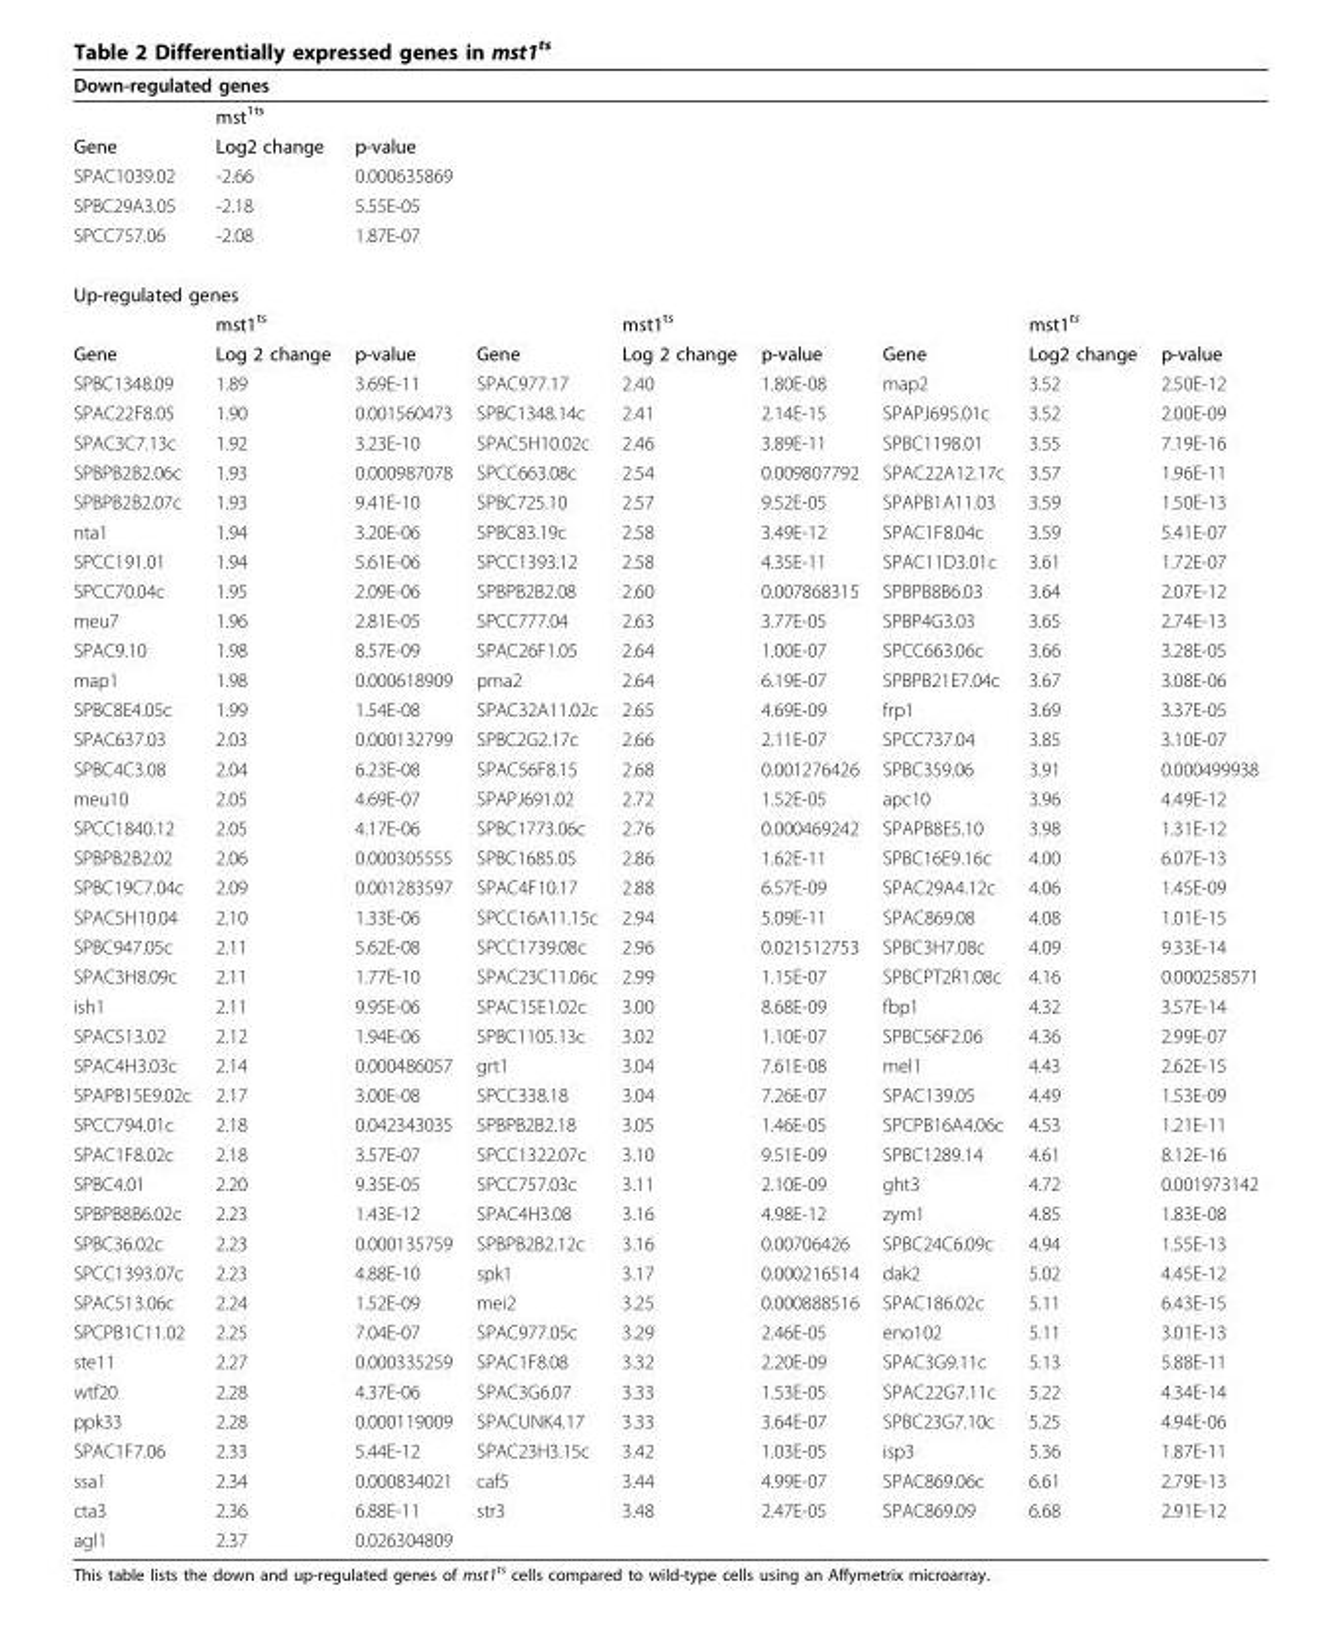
<table><thead><tr><td colspan="9">Down-regulated genes</td></tr><tr><td rowspan="2">Gene</td><td rowspan="2">mst1ts Log2 change</td><td rowspan="2">p-value</td><td rowspan="2"></td><td rowspan="2"></td><td rowspan="2"></td><td rowspan="2"></td><td rowspan="2"></td><td rowspan="2"></td></tr><tr></tr></thead><tbody><tr><td>SPAC1039.02</td><td>-2.66</td><td>0.000635869</td><td></td><td></td><td></td><td></td><td></td><td></td></tr><tr><td>SPBC29A3.05</td><td>-2.18</td><td>5.55E-05</td><td></td><td></td><td></td><td></td><td></td><td></td></tr><tr><td>SPCC757.06</td><td>-2.08</td><td>1.87E-07</td><td></td><td></td><td></td><td></td><td></td><td></td></tr><tr><td colspan="9">Up-regulated genes</td></tr><tr><td></td><td>mst1ts</td><td></td><td></td><td>mst1ts</td><td></td><td></td><td>mst1ts</td><td></td></tr><tr><td>Gene</td><td>Log 2 change</td><td>p-value</td><td>Gene</td><td>Log 2 change</td><td>p-value</td><td>Gene</td><td>Log2 change</td><td>p-value</td></tr><tr><td>SPBC1348.09</td><td>1.89</td><td>3.69E-11</td><td>SPAC977.17</td><td>2.40</td><td>1.80E-08</td><td>map2</td><td>3.52</td><td>2.50E-12</td></tr><tr><td>SPAC22F8.05</td><td>1.90</td><td>0.001560473</td><td>SPBC1348.14c</td><td>2.41</td><td>2.14E-15</td><td>SPAPJ695.01c</td><td>3.52</td><td>2.00E-09</td></tr><tr><td>SPAC3C7.13c</td><td>1.92</td><td>3.23E-10</td><td>SPAC5H10.02c</td><td>2.46</td><td>3.89E-11</td><td>SPBC1198.01</td><td>3.55</td><td>7.19E-16</td></tr><tr><td>SPBPB2B2.06c</td><td>1.93</td><td>0.000987078</td><td>SPCC663.08c</td><td>2.54</td><td>0.009807792</td><td>SPAC22A12.17c</td><td>3.57</td><td>1.96E-11</td></tr><tr><td>SPBPB2B2.07c</td><td>1.93</td><td>9.41E-10</td><td>SPBC725.10</td><td>2.57</td><td>9.52E-05</td><td>SPAPB1A11.03</td><td>3.59</td><td>1.50E-13</td></tr><tr><td>nta1</td><td>1.94</td><td>3.20E-06</td><td>SPBC83.19c</td><td>2.58</td><td>3.49E-12</td><td>SPAC1F8.04c</td><td>3.59</td><td>5.41E-07</td></tr><tr><td>SPCC191.01</td><td>1.94</td><td>5.61E-06</td><td>SPCC1393.12</td><td>2.58</td><td>4.35E-11</td><td>SPAC11D3.01c</td><td>3.61</td><td>1.72E-07</td></tr><tr><td>SPCC70.04c</td><td>1.95</td><td>2.09E-06</td><td>SPBPB2B2.08</td><td>2.60</td><td>0.007868315</td><td>SPBPB8B6.03</td><td>3.64</td><td>2.07E-12</td></tr><tr><td>meu7</td><td>1.96</td><td>2.81E-05</td><td>SPCC777.04</td><td>2.63</td><td>3.77E-05</td><td>SPBP4G3.03</td><td>3.65</td><td>2.74E-13</td></tr><tr><td>SPAC9.10</td><td>1.98</td><td>8.57E-09</td><td>SPAC26F1.05</td><td>2.64</td><td>1.00E-07</td><td>SPCC663.06c</td><td>3.66</td><td>3.28E-05</td></tr><tr><td>map1</td><td>1.98</td><td>0.000618909</td><td>pma2</td><td>2.64</td><td>6.19E-07</td><td>SPBPB21E7.04c</td><td>3.67</td><td>3.08E-06</td></tr><tr><td>SPBC8E4.05c</td><td>1.99</td><td>1.54E-08</td><td>SPAC32A11.02c</td><td>2.65</td><td>4.69E-09</td><td>frp1</td><td>3.69</td><td>3.37E-05</td></tr><tr><td>SPAC637.03</td><td>2.03</td><td>0.000132799</td><td>SPBC2G2.17c</td><td>2.66</td><td>2.11E-07</td><td>SPCC737.04</td><td>3.85</td><td>3.10E-07</td></tr><tr><td>SPBC4C3.08</td><td>2.04</td><td>6.23E-08</td><td>SPAC56F8.15</td><td>2.68</td><td>0.001276426</td><td>SPBC359.06</td><td>3.91</td><td>0.000499938</td></tr><tr><td>meu10</td><td>2.05</td><td>4.69E-07</td><td>SPAPJ691.02</td><td>2.72</td><td>1.52E-05</td><td>apc10</td><td>3.96</td><td>4.49E-12</td></tr><tr><td>SPCC1840.12</td><td>2.05</td><td>4.17E-06</td><td>SPBC1773.06c</td><td>2.76</td><td>0.000469242</td><td>SPAPB8E5.10</td><td>3.98</td><td>1.31E-12</td></tr><tr><td>SPBPB2B2.02</td><td>2.06</td><td>0.000305555</td><td>SPBC1685.05</td><td>2.86</td><td>1.62E-11</td><td>SPBC16E9.16c</td><td>4.00</td><td>6.07E-13</td></tr><tr><td>SPBC19C7.04c</td><td>2.09</td><td>0.001283597</td><td>SPAC4F10.17</td><td>2.88</td><td>6.57E-09</td><td>SPAC29A4.12c</td><td>4.06</td><td>1.45E-09</td></tr><tr><td>SPAC5H10.04</td><td>2.10</td><td>1.33E-06</td><td>SPCC16A11.15c</td><td>2.94</td><td>5.09E-11</td><td>SPAC869.08</td><td>4.08</td><td>1.01E-15</td></tr><tr><td>SPBC947.05c</td><td>2.11</td><td>5.62E-08</td><td>SPCC1739.08c</td><td>2.96</td><td>0.021512753</td><td>SPBC3H7.08c</td><td>4.09</td><td>9.33E-14</td></tr><tr><td>SPAC3H8.09c</td><td>2.11</td><td>1.77E-10</td><td>SPAC23C11.06c</td><td>2.99</td><td>1.15E-07</td><td>SPBCPT2R1.08c</td><td>4.16</td><td>0.000258571</td></tr><tr><td>ish1</td><td>2.11</td><td>9.95E-06</td><td>SPAC15E1.02c</td><td>3.00</td><td>8.68E-09</td><td>fbp1</td><td>4.32</td><td>3.57E-14</td></tr><tr><td>SPAC513.02</td><td>2.12</td><td>1.94E-06</td><td>SPBC1105.13c</td><td>3.02</td><td>1.10E-07</td><td>SPBC56F2.06</td><td>4.36</td><td>2.99E-07</td></tr><tr><td>SPAC4H3.03c</td><td>2.14</td><td>0.000486057</td><td>grt1</td><td>3.04</td><td>7.61E-08</td><td>mel1</td><td>4.43</td><td>2.62E-15</td></tr><tr><td>SPAPB15E9.02c</td><td>2.17</td><td>3.00E-08</td><td>SPCC338.18</td><td>3.04</td><td>7.26E-07</td><td>SPAC139.05</td><td>4.49</td><td>1.53E-09</td></tr><tr><td>SPCC794.01c</td><td>2.18</td><td>0.042343035</td><td>SPBPB2B2.18</td><td>3.05</td><td>1.46E-05</td><td>SPCPB16A4.06c</td><td>4.53</td><td>1.21E-11</td></tr><tr><td>SPAC1F8.02c</td><td>2.18</td><td>3.57E-07</td><td>SPCC1322.07c</td><td>3.10</td><td>9.51E-09</td><td>SPBC1289.14</td><td>4.61</td><td>8.12E-16</td></tr><tr><td>SPBC4.01</td><td>2.20</td><td>9.35E-05</td><td>SPCC757.03c</td><td>3.11</td><td>2.10E-09</td><td>ght3</td><td>4.72</td><td>0.001973142</td></tr><tr><td>SPBPB8B6.02c</td><td>2.23</td><td>1.43E-12</td><td>SPAC4H3.08</td><td>3.16</td><td>4.98E-12</td><td>zym1</td><td>4.85</td><td>1.83E-08</td></tr><tr><td>SPBC36.02c</td><td>2.23</td><td>0.000135759</td><td>SPBPB2B2.12c</td><td>3.16</td><td>0.00706426</td><td>SPBC24C6.09c</td><td>4.94</td><td>1.55E-13</td></tr><tr><td>SPCC1393.07c</td><td>2.23</td><td>4.88E-10</td><td>spk1</td><td>3.17</td><td>0.000216514</td><td>dak2</td><td>5.02</td><td>4.45E-12</td></tr><tr><td>SPAC513.06c</td><td>2.24</td><td>1.52E-09</td><td>mei2</td><td>3.25</td><td>0.000888516</td><td>SPAC186.02c</td><td>5.11</td><td>6.43E-15</td></tr><tr><td>SPCPB1C11.02</td><td>2.25</td><td>7.04E-07</td><td>SPAC977.05c</td><td>3.29</td><td>2.46E-05</td><td>eno102</td><td>5.11</td><td>3.01E-13</td></tr><tr><td>ste11</td><td>2.27</td><td>0.000335259</td><td>SPAC1F8.08</td><td>3.32</td><td>2.20E-09</td><td>SPAC3G9.11c</td><td>5.13</td><td>5.88E-11</td></tr><tr><td>wtf20</td><td>2.28</td><td>4.37E-06</td><td>SPAC3G6.07</td><td>3.33</td><td>1.53E-05</td><td>SPAC22G7.11c</td><td>5.22</td><td>4.34E-14</td></tr><tr><td>ppk33</td><td>2.28</td><td>0.000119009</td><td>SPACUNK4.17</td><td>3.33</td><td>3.64E-07</td><td>SPBC23G7.10c</td><td>5.25</td><td>4.94E-06</td></tr><tr><td>SPAC1F7.06</td><td>2.33</td><td>5.44E-12</td><td>SPAC23H3.15c</td><td>3.42</td><td>1.03E-05</td><td>isp3</td><td>5.36</td><td>1.87E-11</td></tr><tr><td>ssa1</td><td>2.34</td><td>0.000834021</td><td>caf5</td><td>3.44</td><td>4.99E-07</td><td>SPAC869.06c</td><td>6.61</td><td>2.79E-13</td></tr><tr><td>cta3</td><td>2.36</td><td>6.88E-11</td><td>str3</td><td>3.48</td><td>2.47E-05</td><td>SPAC869.09</td><td>6.68</td><td>2.91E-12</td></tr><tr><td>agl1</td><td>2.37</td><td>0.026304809</td><td></td><td></td><td></td><td></td><td></td><td></td></tr></tbody></table>